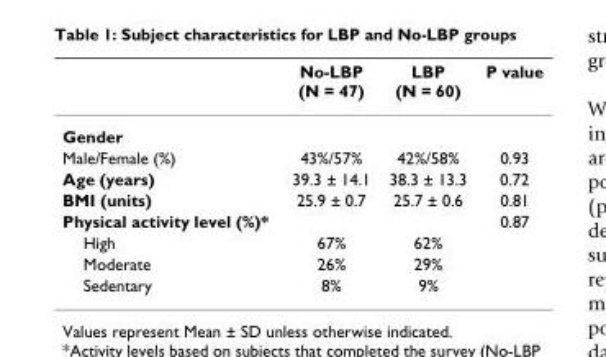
<table><thead><tr><td></td><td>No-LBP (N = 47)</td><td>LBP (N = 60)</td><td>P value</td></tr></thead><tbody><tr><td colspan="4">Gender</td></tr><tr><td>Male/Female (%)</td><td>43%/57%</td><td>42%/58%</td><td>0.93</td></tr><tr><td>Age (years)</td><td>39.3 ± 14.1</td><td>38.3 ± 13.3</td><td>0.72</td></tr><tr><td>BMI (units)</td><td>25.9 ± 0.7</td><td>25.7 ± 0.6</td><td>0.81</td></tr><tr><td>Physical activity level (%)*</td><td></td><td></td><td>0.87</td></tr><tr><td>High</td><td>67%</td><td>62%</td><td></td></tr><tr><td>Moderate</td><td>26%</td><td>29%</td><td></td></tr><tr><td>Sedentary</td><td>8%</td><td>9%</td><td></td></tr></tbody></table>